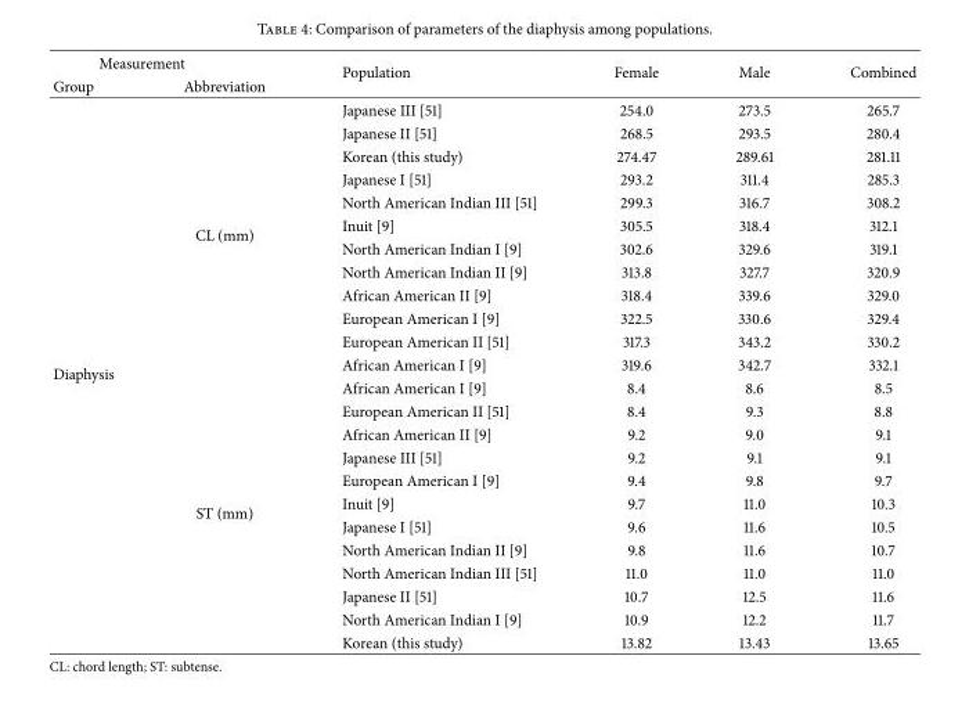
<table><thead><tr><td colspan="2">Measurement</td><td rowspan="2">Population</td><td rowspan="2">Female</td><td rowspan="2">Male</td><td rowspan="2">Combined</td></tr><tr><td>Group</td><td>Abbreviation</td></tr></thead><tbody><tr><td rowspan="24">Diaphysis</td><td rowspan="12">CL (mm)</td><td>Japanese III [51]</td><td>254.0</td><td>273.5</td><td>265.7</td></tr><tr><td>Japanese II [51]</td><td>268.5</td><td>293.5</td><td>280.4</td></tr><tr><td>Korean (this study)</td><td>274.47</td><td>289.61</td><td>281.11</td></tr><tr><td>Japanese I [51]</td><td>293.2</td><td>311.4</td><td>285.3</td></tr><tr><td>North American Indian III [51]</td><td>299.3</td><td>316.7</td><td>308.2</td></tr><tr><td>Inuit [9]</td><td>305.5</td><td>318.4</td><td>312.1</td></tr><tr><td>North American Indian I [9]</td><td>302.6</td><td>329.6</td><td>319.1</td></tr><tr><td>North American Indian II [9]</td><td>313.8</td><td>327.7</td><td>320.9</td></tr><tr><td>African American II [9]</td><td>318.4</td><td>339.6</td><td>329.0</td></tr><tr><td>European American I [9]</td><td>322.5</td><td>330.6</td><td>329.4</td></tr><tr><td>European American II [51]</td><td>317.3</td><td>343.2</td><td>330.2</td></tr><tr><td>African American I [9]</td><td>319.6</td><td>342.7</td><td>332.1</td></tr><tr><td rowspan="12">ST (mm)</td><td>African American I [9]</td><td>8.4</td><td>8.6</td><td>8.5</td></tr><tr><td>European American II [51]</td><td>8.4</td><td>9.3</td><td>8.8</td></tr><tr><td>African American II [9]</td><td>9.2</td><td>9.0</td><td>9.1</td></tr><tr><td>Japanese III [51]</td><td>9.2</td><td>9.1</td><td>9.1</td></tr><tr><td>European American I [9]</td><td>9.4</td><td>9.8</td><td>9.7</td></tr><tr><td>Inuit [9]</td><td>9.7</td><td>11.0</td><td>10.3</td></tr><tr><td>Japanese I [51]</td><td>9.6</td><td>11.6</td><td>10.5</td></tr><tr><td>North American Indian II [9]</td><td>9.8</td><td>11.6</td><td>10.7</td></tr><tr><td>North American Indian III [51]</td><td>11.0</td><td>11.0</td><td>11.0</td></tr><tr><td>Japanese II [51]</td><td>10.7</td><td>12.5</td><td>11.6</td></tr><tr><td>North American Indian I [9]</td><td>10.9</td><td>12.2</td><td>11.7</td></tr><tr><td>Korean (this study)</td><td>13.82</td><td>13.43</td><td>13.65</td></tr></tbody></table>